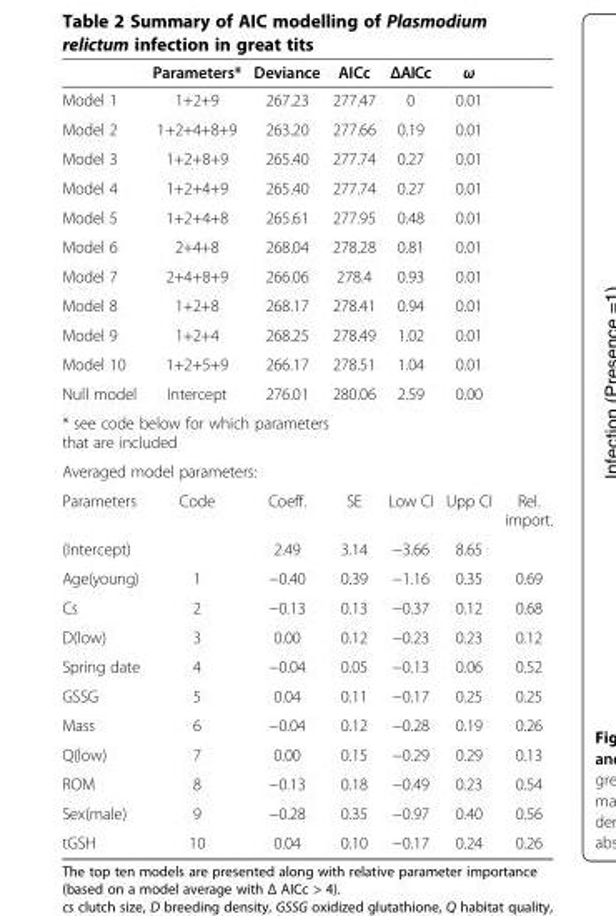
<table><thead><tr><td></td><td>Parameters*</td><td>Deviance</td><td>AICc</td><td>ΔAICc</td><td>ω</td><td></td></tr></thead><tbody><tr><td>Model 1</td><td>1+2+9</td><td>267.23</td><td>277.47</td><td>0</td><td>0.01</td><td></td></tr><tr><td>Model 2</td><td>1+2+4+8+9</td><td>263.20</td><td>277.66</td><td>0.19</td><td>0.01</td><td></td></tr><tr><td>Model 3</td><td>1+2+8+9</td><td>265.40</td><td>277.74</td><td>0.27</td><td>0.01</td><td></td></tr><tr><td>Model 4</td><td>1+2+4+9</td><td>265.40</td><td>277.74</td><td>0.27</td><td>0.01</td><td></td></tr><tr><td>Model 5</td><td>1+2+4+8</td><td>265.61</td><td>277.95</td><td>0.48</td><td>0.01</td><td></td></tr><tr><td>Model 6</td><td>2+4+8</td><td>268.04</td><td>278.28</td><td>0.81</td><td>0.01</td><td></td></tr><tr><td>Model 7</td><td>2+4+8+9</td><td>266.06</td><td>278.4</td><td>0.93</td><td>0.01</td><td></td></tr><tr><td>Model 8</td><td>1+2+8</td><td>268.17</td><td>278.41</td><td>0.94</td><td>0.01</td><td></td></tr><tr><td>Model 9</td><td>1+2+4</td><td>268.25</td><td>278.49</td><td>1.02</td><td>0.01</td><td></td></tr><tr><td>Model 10</td><td>1+2+5+9</td><td>266.17</td><td>278.51</td><td>1.04</td><td>0.01</td><td></td></tr><tr><td>Null model</td><td>Intercept</td><td>276.01</td><td>280.06</td><td>2.59</td><td>0.00</td><td></td></tr><tr><td colspan="7">* see code below for which parameters that are included</td></tr><tr><td colspan="7">Averaged model parameters:</td></tr><tr><td>Parameters</td><td>Code</td><td>Coeff.</td><td>SE</td><td>Low CI</td><td>Upp CI</td><td>Rel. import.</td></tr><tr><td>(Intercept)</td><td></td><td>2.49</td><td>3.14</td><td>−3.66</td><td>8.65</td><td></td></tr><tr><td>Age(young)</td><td>1</td><td>−0.40</td><td>0.39</td><td>−1.16</td><td>0.35</td><td>0.69</td></tr><tr><td>Cs</td><td>2</td><td>−0.13</td><td>0.13</td><td>−0.37</td><td>0.12</td><td>0.68</td></tr><tr><td>D(low)</td><td>3</td><td>0.00</td><td>0.12</td><td>−0.23</td><td>0.23</td><td>0.12</td></tr><tr><td>Spring date</td><td>4</td><td>−0.04</td><td>0.05</td><td>−0.13</td><td>0.06</td><td>0.52</td></tr><tr><td>GSSG</td><td>5</td><td>0.04</td><td>0.11</td><td>−0.17</td><td>0.25</td><td>0.25</td></tr><tr><td>Mass</td><td>6</td><td>−0.04</td><td>0.12</td><td>−0.28</td><td>0.19</td><td>0.26</td></tr><tr><td>Q(low)</td><td>7</td><td>0.00</td><td>0.15</td><td>−0.29</td><td>0.29</td><td>0.13</td></tr><tr><td>ROM</td><td>8</td><td>−0.13</td><td>0.18</td><td>−0.49</td><td>0.23</td><td>0.54</td></tr><tr><td>Sex(male)</td><td>9</td><td>−0.28</td><td>0.35</td><td>−0.97</td><td>0.40</td><td>0.56</td></tr><tr><td>tGSH</td><td>10</td><td>0.04</td><td>0.10</td><td>−0.17</td><td>0.24</td><td>0.26</td></tr></tbody></table>